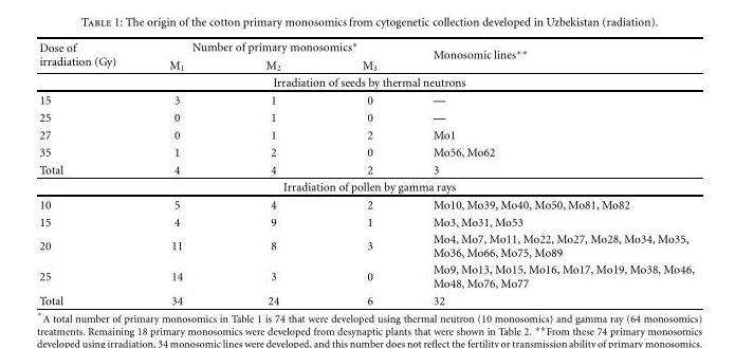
<table><thead><tr><td rowspan="2">Dose of irradiation (Gy)</td><td colspan="3">Number of primary monosomics∗</td><td rowspan="2">Monosomic lines∗∗</td></tr><tr><td>M1</td><td>M2</td><td>M3</td></tr></thead><tbody><tr><td colspan="5">Irradiation of seeds by thermal neutrons</td></tr><tr><td>15</td><td>3</td><td>1</td><td>0</td><td>—</td></tr><tr><td>25</td><td>0</td><td>1</td><td>0</td><td>—</td></tr><tr><td>27</td><td>0</td><td>1</td><td>2</td><td>Mo1</td></tr><tr><td>35</td><td>1</td><td>2</td><td>0</td><td>Mo56, Mo62</td></tr><tr><td>Total</td><td>4</td><td>4</td><td>2</td><td>3</td></tr><tr><td colspan="5">Irradiation of pollen by gamma rays</td></tr><tr><td>10</td><td>5</td><td>4</td><td>2</td><td>Mo10, Mo39, Mo40, Mo50, Mo81, Mo82</td></tr><tr><td>15</td><td>4</td><td>9</td><td>1</td><td>Mo3, Mo31, Mo53</td></tr><tr><td>20</td><td>11</td><td>8</td><td>3</td><td>Mo4, Mo7, Mo11, Mo22, Mo27, Mo28, Mo34, Mo35, Mo36, Mo66, Mo75, Mo89</td></tr><tr><td>25</td><td>14</td><td>3</td><td>0</td><td>Mo9, Mo13, Mo15, Mo16, Mo17, Mo19, Mo38, Mo46, Mo48, Mo76, Mo77</td></tr><tr><td>Total</td><td>34</td><td>24</td><td>6</td><td>32</td></tr></tbody></table>